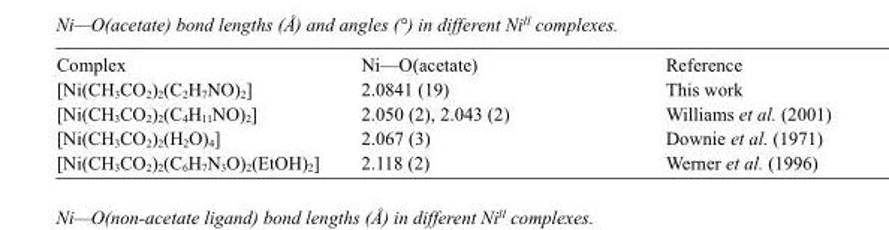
<table><tbody><tr><td>Complex</td><td>Ni—O(acetate)</td><td>Reference</td></tr><tr><td>[Ni(CH<sub>3</sub>CO<sub>2</sub>)<sub>2</sub>(C<sub>2</sub>H<sub>7</sub>NO)<sub>2</sub>]</td><td>2.0841 (19)</td><td>This work</td></tr><tr><td>[Ni(CH<sub>3</sub>CO<sub>2</sub>)<sub>2</sub>(C<sub>4</sub>H<sub>11</sub>NO)<sub>2</sub>]</td><td>2.050 (2), 2.043 (2)</td><td>Williams et al. (2001)</td></tr><tr><td>[Ni(CH<sub>3</sub>CO<sub>2</sub>)<sub>2</sub>(H<sub>2</sub>O)<sub>4</sub>]</td><td>2.067 (3)</td><td>Downie et al. (1971)</td></tr><tr><td>[Ni(CH<sub>3</sub>CO<sub>2</sub>)<sub>2</sub>(C<sub>6</sub>H<sub>7</sub>N<sub>3</sub>O)<sub>2</sub>(EtOH)<sub>2</sub>]</td><td>2.118 (2)</td><td>Werner et al. (1996)</td></tr></tbody></table>